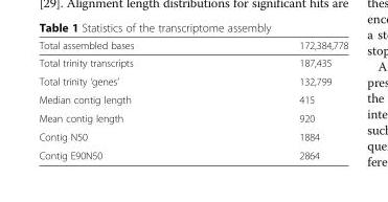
<table><thead><tr><td>Total assembled bases</td><td>172,384,778</td></tr></thead><tbody><tr><td>Total trinity transcripts</td><td>187,435</td></tr><tr><td>Total trinity ‘genes’</td><td>132,799</td></tr><tr><td>Median contig length</td><td>415</td></tr><tr><td>Mean contig length</td><td>920</td></tr><tr><td>Contig N50</td><td>1884</td></tr><tr><td>Contig E90N50</td><td>2864</td></tr></tbody></table>